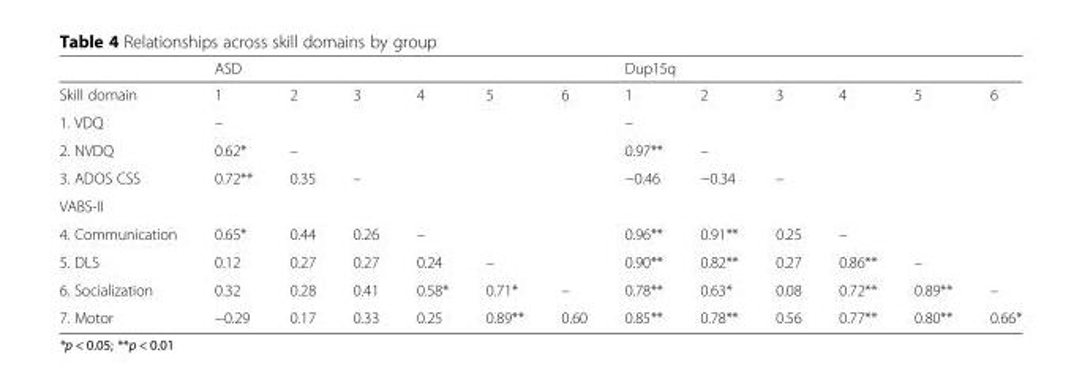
<table><thead><tr><td rowspan="2">Skill domain</td><td colspan="6">ASD</td><td colspan="6">Dup15q</td></tr><tr><td>1</td><td>2</td><td>3</td><td>4</td><td>5</td><td>6</td><td>1</td><td>2</td><td>3</td><td>4</td><td>5</td><td>6</td></tr></thead><tbody><tr><td>1. VDQ</td><td>–</td><td></td><td></td><td></td><td></td><td></td><td>–</td><td></td><td></td><td></td><td></td><td></td></tr><tr><td>2. NVDQ</td><td>0.62*</td><td>–</td><td></td><td></td><td></td><td></td><td>0.97**</td><td>–</td><td></td><td></td><td></td><td></td></tr><tr><td>3. ADOS CSS</td><td>0.72**</td><td>0.35</td><td>–</td><td></td><td></td><td></td><td>−0.46</td><td>−0.34</td><td>–</td><td></td><td></td><td></td></tr><tr><td colspan="13">VABS-II</td></tr><tr><td>4. Communication</td><td>0.65*</td><td>0.44</td><td>0.26</td><td>–</td><td></td><td></td><td>0.96**</td><td>0.91**</td><td>0.25</td><td>–</td><td></td><td></td></tr><tr><td>5. DLS</td><td>0.12</td><td>0.27</td><td>0.27</td><td>0.24</td><td>–</td><td></td><td>0.90**</td><td>0.82**</td><td>0.27</td><td>0.86**</td><td>–</td><td></td></tr><tr><td>6. Socialization</td><td>0.32</td><td>0.28</td><td>0.41</td><td>0.58*</td><td>0.71*</td><td>–</td><td>0.78**</td><td>0.63*</td><td>0.08</td><td>0.72**</td><td>0.89**</td><td>–</td></tr><tr><td>7. Motor</td><td>−0.29</td><td>0.17</td><td>0.33</td><td>0.25</td><td>0.89**</td><td>0.60</td><td>0.85**</td><td>0.78**</td><td>0.56</td><td>0.77**</td><td>0.80**</td><td>0.66*</td></tr></tbody></table>